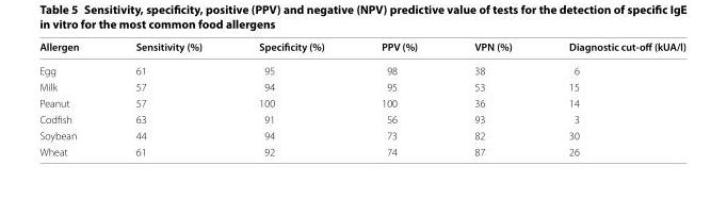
<table><thead><tr><td>Allergen</td><td>Sensitivity (%)</td><td>Specificity (%)</td><td>PPV (%)</td><td>VPN (%)</td><td>Diagnostic cut‑off (kUA/l)</td></tr></thead><tbody><tr><td>Egg</td><td>61</td><td>95</td><td>98</td><td>38</td><td>6</td></tr><tr><td>Milk</td><td>57</td><td>94</td><td>95</td><td>53</td><td>15</td></tr><tr><td>Peanut</td><td>57</td><td>100</td><td>100</td><td>36</td><td>14</td></tr><tr><td>Codfish</td><td>63</td><td>91</td><td>56</td><td>93</td><td>3</td></tr><tr><td>Soybean</td><td>44</td><td>94</td><td>73</td><td>82</td><td>30</td></tr><tr><td>Wheat</td><td>61</td><td>92</td><td>74</td><td>87</td><td>26</td></tr></tbody></table>